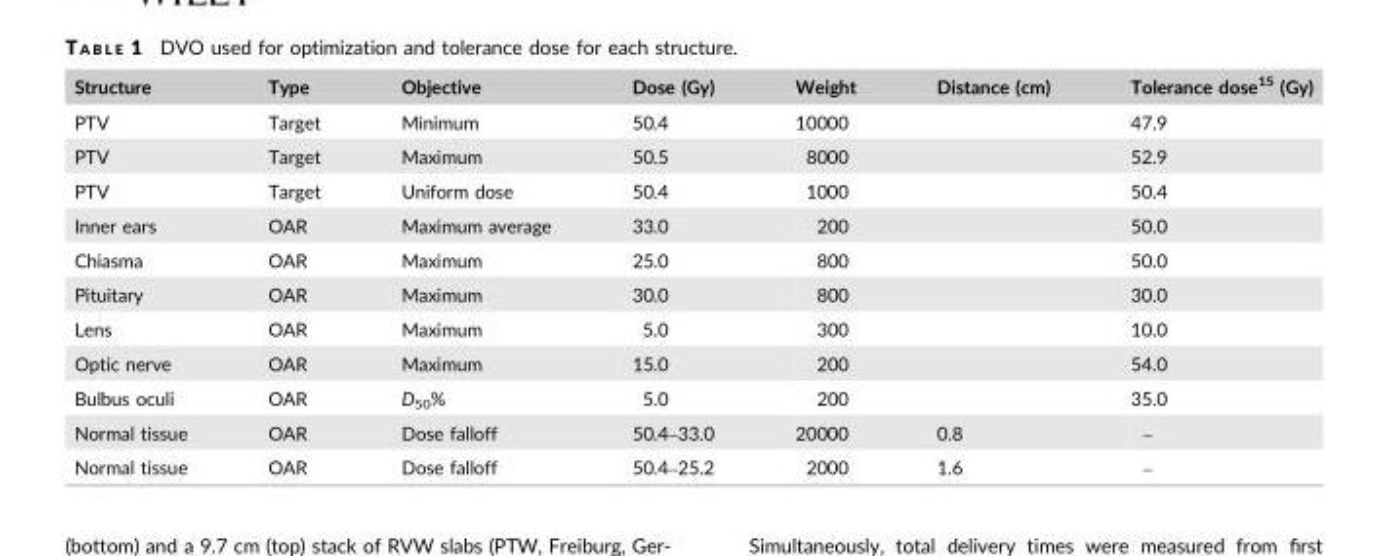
<table><thead><tr><td>Structure</td><td>Type</td><td>Objective</td><td>Dose (Gy)</td><td>Weight</td><td>Distance (cm)</td><td>Tolerance dose<sup>15</sup> (Gy)</td></tr></thead><tbody><tr><td>PTV</td><td>Target</td><td>Minimum</td><td>50.4</td><td>10000</td><td></td><td>47.9</td></tr><tr><td>PTV</td><td>Target</td><td>Maximum</td><td>50.5</td><td>8000</td><td></td><td>52.9</td></tr><tr><td>PTV</td><td>Target</td><td>Uniform dose</td><td>50.4</td><td>1000</td><td></td><td>50.4</td></tr><tr><td>Inner ears</td><td>OAR</td><td>Maximum average</td><td>33.0</td><td>200</td><td></td><td>50.0</td></tr><tr><td>Chiasma</td><td>OAR</td><td>Maximum</td><td>25.0</td><td>800</td><td></td><td>50.0</td></tr><tr><td>Pituitary</td><td>OAR</td><td>Maximum</td><td>30.0</td><td>800</td><td></td><td>30.0</td></tr><tr><td>Lens</td><td>OAR</td><td>Maximum</td><td>5.0</td><td>300</td><td></td><td>10.0</td></tr><tr><td>Optic nerve</td><td>OAR</td><td>Maximum</td><td>15.0</td><td>200</td><td></td><td>54.0</td></tr><tr><td>Bulbus oculi</td><td>OAR</td><td>D<sub>50</sub>%</td><td>5.0</td><td>200</td><td></td><td>35.0</td></tr><tr><td>Normal tissue</td><td>OAR</td><td>Dose falloff</td><td>50.4–33.0</td><td>20000</td><td>0.8</td><td>–</td></tr><tr><td>Normal tissue</td><td>OAR</td><td>Dose falloff</td><td>50.4–25.2</td><td>2000</td><td>1.6</td><td>–</td></tr></tbody></table>